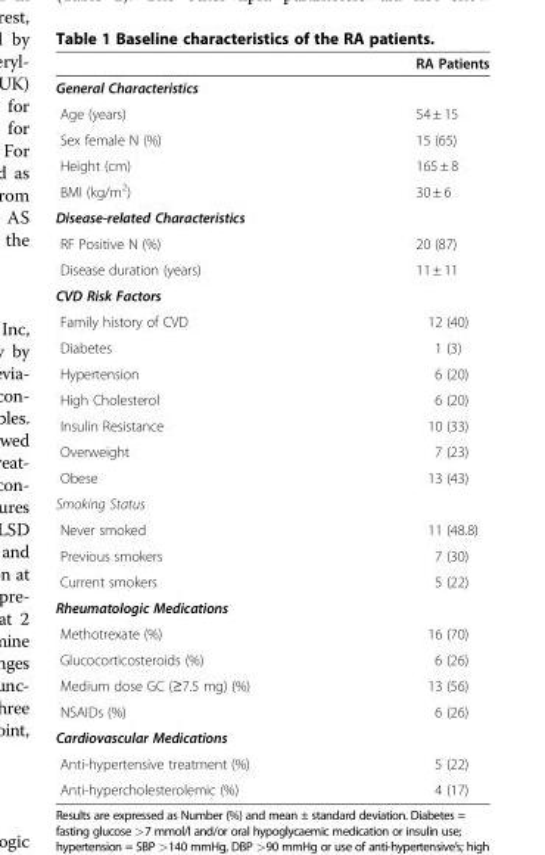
<table><thead><tr><td></td><td>RA Patients</td></tr></thead><tbody><tr><td colspan="2">General Characteristics</td></tr><tr><td>Age (years)</td><td>54 ± 15</td></tr><tr><td>Sex female N (%)</td><td>15 (65)</td></tr><tr><td>Height (cm)</td><td>165 ± 8</td></tr><tr><td>BMI (kg/m<sup>2</sup>)</td><td>30 ± 6</td></tr><tr><td colspan="2">Disease-related Characteristics</td></tr><tr><td>RF Positive N (%)</td><td>20 (87)</td></tr><tr><td>Disease duration (years)</td><td>11 ± 11</td></tr><tr><td colspan="2">CVD Risk Factors</td></tr><tr><td>Family history of CVD</td><td>12 (40)</td></tr><tr><td>Diabetes</td><td>1 (3)</td></tr><tr><td>Hypertension</td><td>6 (20)</td></tr><tr><td>High Cholesterol</td><td>6 (20)</td></tr><tr><td>Insulin Resistance</td><td>10 (33)</td></tr><tr><td>Overweight</td><td>7 (23)</td></tr><tr><td>Obese</td><td>13 (43)</td></tr><tr><td colspan="2">Smoking Status</td></tr><tr><td>Never smoked</td><td>11 (48.8)</td></tr><tr><td>Previous smokers</td><td>7 (30)</td></tr><tr><td>Current smokers</td><td>5 (22)</td></tr><tr><td colspan="2">Rheumatologic Medications</td></tr><tr><td>Methotrexate (%)</td><td>16 (70)</td></tr><tr><td>Glucocorticosteroids (%)</td><td>6 (26)</td></tr><tr><td>Medium dose GC (≥7.5 mg) (%)</td><td>13 (56)</td></tr><tr><td>NSAIDs (%)</td><td>6 (26)</td></tr><tr><td colspan="2">Cardiovascular Medications</td></tr><tr><td>Anti-hypertensive treatment (%)</td><td>5 (22)</td></tr><tr><td>Anti-hypercholesterolemic (%)</td><td>4 (17)</td></tr></tbody></table>